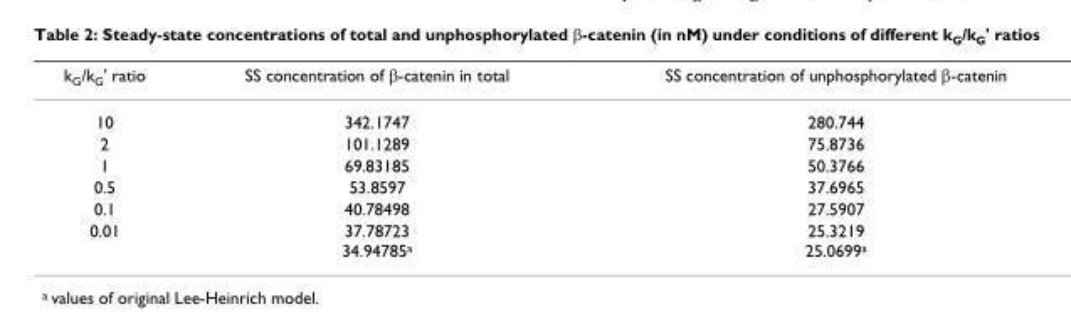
<table><thead><tr><td>k<sub>G</sub>/k<sub>G</sub>&#x27; ratio</td><td>SS concentration of β-catenin in total</td><td>SS concentration of unphosphorylated β-catenin</td></tr></thead><tbody><tr><td>10</td><td>342.1747</td><td>280.744</td></tr><tr><td>2</td><td>101.1289</td><td>75.8736</td></tr><tr><td>1</td><td>69.83185</td><td>50.3766</td></tr><tr><td>0.5</td><td>53.8597</td><td>37.6965</td></tr><tr><td>0.1</td><td>40.78498</td><td>27.5907</td></tr><tr><td>0.01</td><td>37.78723 34.94785<sup>a</sup></td><td>25.3219 25.0699<sup>a</sup></td></tr></tbody></table>